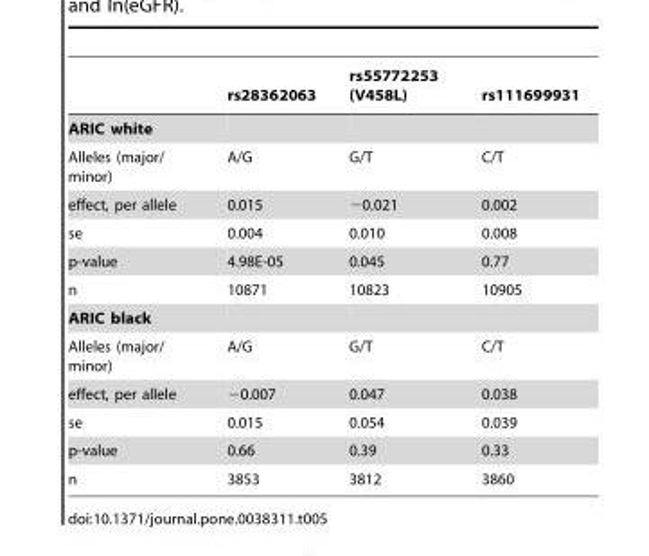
<table><thead><tr><td></td><td>rs28362063</td><td>rs55772253 (V458L)</td><td>rs111699931</td></tr></thead><tbody><tr><td colspan="4">ARIC white</td></tr><tr><td>Alleles (major/ minor)</td><td>A/G</td><td>G/T</td><td>C/T</td></tr><tr><td>effect, per allele</td><td>0.015</td><td>−0.021</td><td>0.002</td></tr><tr><td>se</td><td>0.004</td><td>0.010</td><td>0.008</td></tr><tr><td>p-value</td><td>4.98E-05</td><td>0.045</td><td>0.77</td></tr><tr><td>n</td><td>10871</td><td>10823</td><td>10905</td></tr><tr><td colspan="4">ARIC black</td></tr><tr><td>Alleles (major/ minor)</td><td>A/G</td><td>G/T</td><td>C/T</td></tr><tr><td>effect, per allele</td><td>−0.007</td><td>0.047</td><td>0.038</td></tr><tr><td>se</td><td>0.015</td><td>0.054</td><td>0.039</td></tr><tr><td>p-value</td><td>0.66</td><td>0.39</td><td>0.33</td></tr><tr><td>n</td><td>3853</td><td>3812</td><td>3860</td></tr></tbody></table>